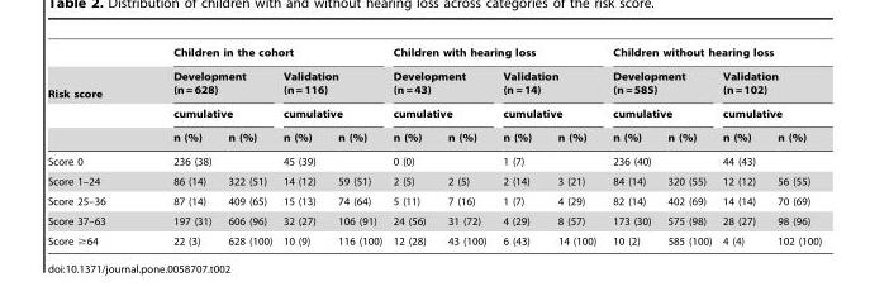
<table><thead><tr><td rowspan="4">Risk score</td><td colspan="4">Children in the cohort</td><td colspan="4">Children with hearing loss</td><td colspan="4">Children without hearing loss</td></tr><tr><td rowspan="2" colspan="2">Development (n = 628) cumulative</td><td rowspan="2" colspan="2">Validation (n = 116) cumulative</td><td rowspan="2" colspan="2">Development (n = 43) cumulative</td><td rowspan="2" colspan="2">Validation (n = 14) cumulative</td><td rowspan="2" colspan="2">Development (n = 585) cumulative</td><td rowspan="2" colspan="2">Validation (n = 102) cumulative</td></tr><tr></tr><tr><td>n (%)</td><td>n (%)</td><td>n (%)</td><td>n (%)</td><td>n (%)</td><td>n (%)</td><td>n (%)</td><td>n (%)</td><td>n (%)</td><td>n (%)</td><td>n (%)</td><td>n (%)</td></tr></thead><tbody><tr><td>Score 0</td><td>236 (38)</td><td></td><td>45 (39)</td><td></td><td>0 (0)</td><td></td><td>1 (7)</td><td></td><td>236 (40)</td><td></td><td>44 (43)</td><td></td></tr><tr><td>Score 1–24</td><td>86 (14)</td><td>322 (51)</td><td>14 (12)</td><td>59 (51)</td><td>2 (5)</td><td>2 (5)</td><td>2 (14)</td><td>3 (21)</td><td>84 (14)</td><td>320 (55)</td><td>12 (12)</td><td>56 (55)</td></tr><tr><td>Score 25–36</td><td>87 (14)</td><td>409 (65)</td><td>15 (13)</td><td>74 (64)</td><td>5 (11)</td><td>7 (16)</td><td>1 (7)</td><td>4 (29)</td><td>82 (14)</td><td>402 (69)</td><td>14 (14)</td><td>70 (69)</td></tr><tr><td>Score 37–63</td><td>197 (31)</td><td>606 (96)</td><td>32 (27)</td><td>106 (91)</td><td>24 (56)</td><td>31 (72)</td><td>4 (29)</td><td>8 (57)</td><td>173 (30)</td><td>575 (98)</td><td>28 (27)</td><td>98 (96)</td></tr><tr><td>Score ≥64</td><td>22 (3)</td><td>628 (100)</td><td>10 (9)</td><td>116 (100)</td><td>12 (28)</td><td>43 (100)</td><td>6 (43)</td><td>14 (100)</td><td>10 (2)</td><td>585 (100)</td><td>4 (4)</td><td>102 (100)</td></tr></tbody></table>